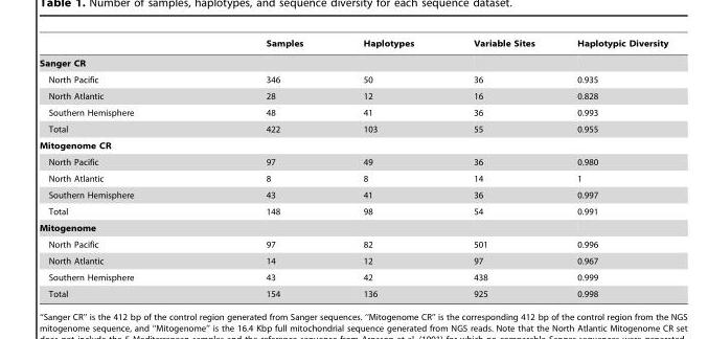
<table><thead><tr><td></td><td>Samples</td><td>Haplotypes</td><td>Variable Sites</td><td>Haplotypic Diversity</td></tr></thead><tbody><tr><td colspan="5">Sanger CR</td></tr><tr><td>North Pacific</td><td>346</td><td>50</td><td>36</td><td>0.935</td></tr><tr><td>North Atlantic</td><td>28</td><td>12</td><td>16</td><td>0.828</td></tr><tr><td>Southern Hemisphere</td><td>48</td><td>41</td><td>36</td><td>0.993</td></tr><tr><td>Total</td><td>422</td><td>103</td><td>55</td><td>0.955</td></tr><tr><td colspan="5">Mitogenome CR</td></tr><tr><td>North Pacific</td><td>97</td><td>49</td><td>36</td><td>0.980</td></tr><tr><td>North Atlantic</td><td>8</td><td>8</td><td>14</td><td>1</td></tr><tr><td>Southern Hemisphere</td><td>43</td><td>41</td><td>36</td><td>0.997</td></tr><tr><td>Total</td><td>148</td><td>98</td><td>54</td><td>0.991</td></tr><tr><td colspan="5">Mitogenome</td></tr><tr><td>North Pacific</td><td>97</td><td>82</td><td>501</td><td>0.996</td></tr><tr><td>North Atlantic</td><td>14</td><td>12</td><td>97</td><td>0.967</td></tr><tr><td>Southern Hemisphere</td><td>43</td><td>42</td><td>438</td><td>0.999</td></tr><tr><td>Total</td><td>154</td><td>136</td><td>925</td><td>0.998</td></tr></tbody></table>